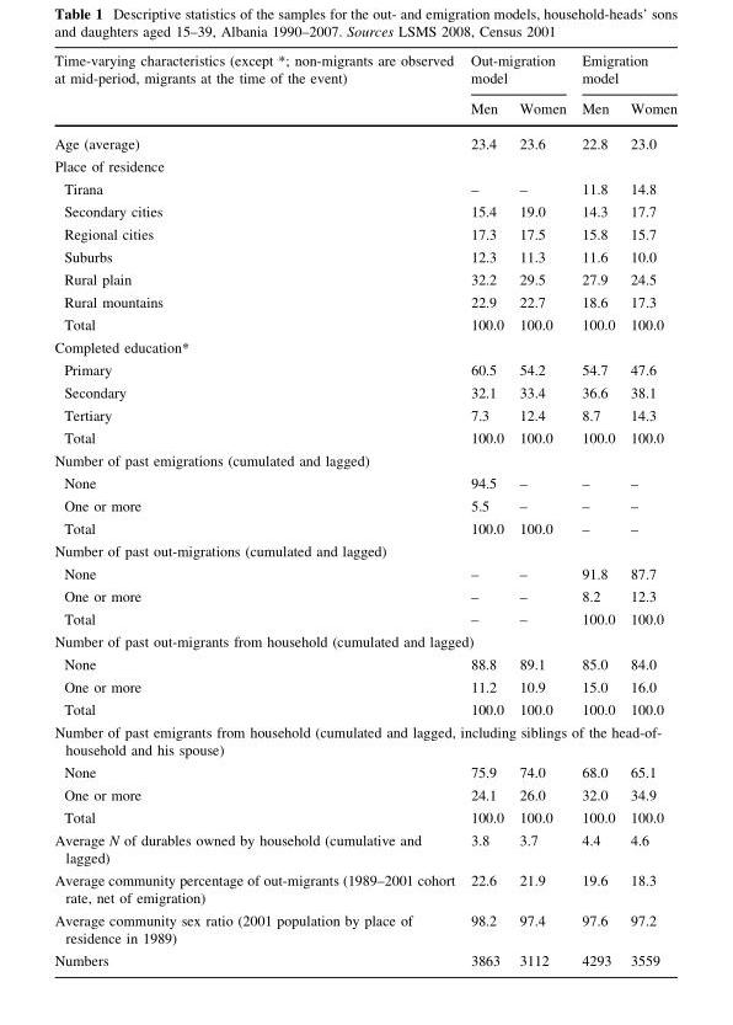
<table><thead><tr><td rowspan="2">Time-varying characteristics (except *; non-migrants are observed at mid-period, migrants at the time of the event)</td><td colspan="2">Out-migration model</td><td colspan="2">Emigration model</td></tr><tr><td>Men</td><td>Women</td><td>Men</td><td>Women</td></tr></thead><tbody><tr><td>Age (average)</td><td>23.4</td><td>23.6</td><td>22.8</td><td>23.0</td></tr><tr><td colspan="5">Place of residence</td></tr><tr><td>Tirana</td><td>–</td><td>–</td><td>11.8</td><td>14.8</td></tr><tr><td>Secondary cities</td><td>15.4</td><td>19.0</td><td>14.3</td><td>17.7</td></tr><tr><td>Regional cities</td><td>17.3</td><td>17.5</td><td>15.8</td><td>15.7</td></tr><tr><td>Suburbs</td><td>12.3</td><td>11.3</td><td>11.6</td><td>10.0</td></tr><tr><td>Rural plain</td><td>32.2</td><td>29.5</td><td>27.9</td><td>24.5</td></tr><tr><td>Rural mountains</td><td>22.9</td><td>22.7</td><td>18.6</td><td>17.3</td></tr><tr><td>Total</td><td>100.0</td><td>100.0</td><td>100.0</td><td>100.0</td></tr><tr><td colspan="5">Completed education*</td></tr><tr><td>Primary</td><td>60.5</td><td>54.2</td><td>54.7</td><td>47.6</td></tr><tr><td>Secondary</td><td>32.1</td><td>33.4</td><td>36.6</td><td>38.1</td></tr><tr><td>Tertiary</td><td>7.3</td><td>12.4</td><td>8.7</td><td>14.3</td></tr><tr><td>Total</td><td>100.0</td><td>100.0</td><td>100.0</td><td>100.0</td></tr><tr><td colspan="5">Number of past emigrations (cumulated and lagged)</td></tr><tr><td>None</td><td>94.5</td><td>–</td><td>–</td><td>–</td></tr><tr><td>One or more</td><td>5.5</td><td>–</td><td>–</td><td>–</td></tr><tr><td>Total</td><td>100.0</td><td>100.0</td><td>–</td><td>–</td></tr><tr><td colspan="5">Number of past out-migrations (cumulated and lagged)</td></tr><tr><td>None</td><td>–</td><td>–</td><td>91.8</td><td>87.7</td></tr><tr><td>One or more</td><td>–</td><td>–</td><td>8.2</td><td>12.3</td></tr><tr><td>Total</td><td>–</td><td>–</td><td>100.0</td><td>100.0</td></tr><tr><td colspan="5">Number of past out-migrants from household (cumulated and lagged)</td></tr><tr><td>None</td><td>88.8</td><td>89.1</td><td>85.0</td><td>84.0</td></tr><tr><td>One or more</td><td>11.2</td><td>10.9</td><td>15.0</td><td>16.0</td></tr><tr><td>Total</td><td>100.0</td><td>100.0</td><td>100.0</td><td>100.0</td></tr><tr><td colspan="5">Number of past emigrants from household (cumulated and lagged, including siblings of the head-of- household and his spouse)</td></tr><tr><td>None</td><td>75.9</td><td>74.0</td><td>68.0</td><td>65.1</td></tr><tr><td>One or more</td><td>24.1</td><td>26.0</td><td>32.0</td><td>34.9</td></tr><tr><td>Total</td><td>100.0</td><td>100.0</td><td>100.0</td><td>100.0</td></tr><tr><td>Average N of durables owned by household (cumulative and lagged)</td><td>3.8</td><td>3.7</td><td>4.4</td><td>4.6</td></tr><tr><td>Average community percentage of out-migrants (1989–2001 cohort rate, net of emigration)</td><td>22.6</td><td>21.9</td><td>19.6</td><td>18.3</td></tr><tr><td>Average community sex ratio (2001 population by place of residence in 1989)</td><td>98.2</td><td>97.4</td><td>97.6</td><td>97.2</td></tr><tr><td>Numbers</td><td>3863</td><td>3112</td><td>4293</td><td>3559</td></tr></tbody></table>